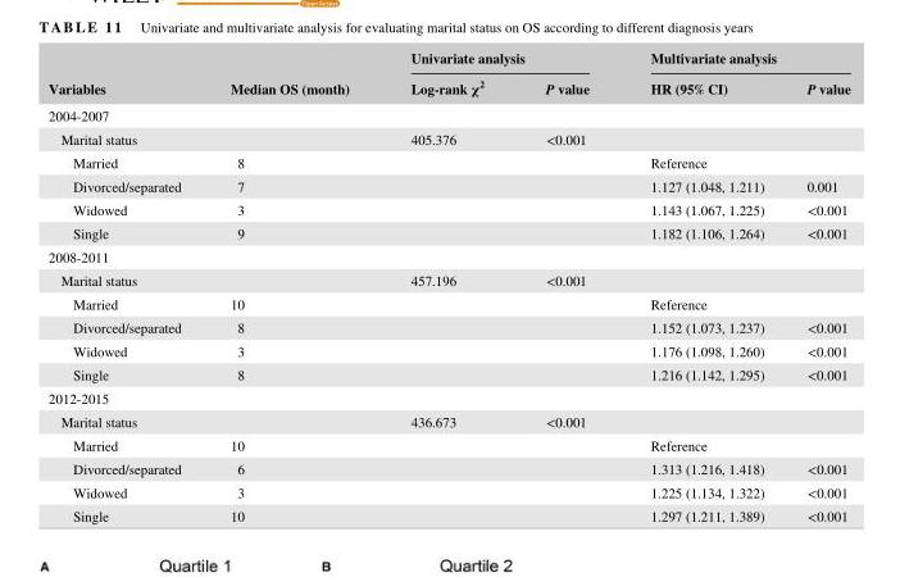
<table><thead><tr><td rowspan="2">Variables</td><td rowspan="2">Median OS (month)</td><td colspan="2">Univariate analysis</td><td colspan="2">Multivariate analysis</td></tr><tr><td>Log- rank χ<sup>2</sup></td><td>P value</td><td>HR (95% CI)</td><td>P value</td></tr></thead><tbody><tr><td colspan="6">2004- 2007</td></tr><tr><td>Marital status</td><td></td><td>405.376</td><td>&lt;0.001</td><td></td><td></td></tr><tr><td>Married</td><td>8</td><td></td><td></td><td>Reference</td><td></td></tr><tr><td>Divorced/separated</td><td>7</td><td></td><td></td><td>1.127 (1.048, 1.211)</td><td>0.001</td></tr><tr><td>Widowed</td><td>3</td><td></td><td></td><td>1.143 (1.067, 1.225)</td><td>&lt;0.001</td></tr><tr><td>Single</td><td>9</td><td></td><td></td><td>1.182 (1.106, 1.264)</td><td>&lt;0.001</td></tr><tr><td colspan="6">2008- 2011</td></tr><tr><td>Marital status</td><td></td><td>457.196</td><td>&lt;0.001</td><td></td><td></td></tr><tr><td>Married</td><td>10</td><td></td><td></td><td>Reference</td><td></td></tr><tr><td>Divorced/separated</td><td>8</td><td></td><td></td><td>1.152 (1.073, 1.237)</td><td>&lt;0.001</td></tr><tr><td>Widowed</td><td>3</td><td></td><td></td><td>1.176 (1.098, 1.260)</td><td>&lt;0.001</td></tr><tr><td>Single</td><td>8</td><td></td><td></td><td>1.216 (1.142, 1.295)</td><td>&lt;0.001</td></tr><tr><td colspan="6">2012- 2015</td></tr><tr><td>Marital status</td><td></td><td>436.673</td><td>&lt;0.001</td><td></td><td></td></tr><tr><td>Married</td><td>10</td><td></td><td></td><td>Reference</td><td></td></tr><tr><td>Divorced/separated</td><td>6</td><td></td><td></td><td>1.313 (1.216, 1.418)</td><td>&lt;0.001</td></tr><tr><td>Widowed</td><td>3</td><td></td><td></td><td>1.225 (1.134, 1.322)</td><td>&lt;0.001</td></tr><tr><td>Single</td><td>10</td><td></td><td></td><td>1.297 (1.211, 1.389)</td><td>&lt;0.001</td></tr></tbody></table>